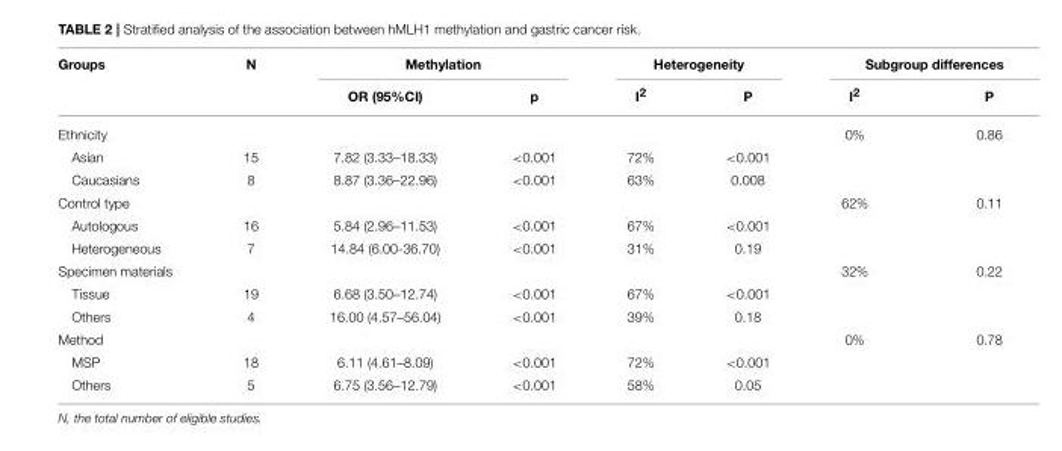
<table><thead><tr><td rowspan="2">Groups</td><td rowspan="2">N</td><td colspan="2">Methylation</td><td colspan="2">Heterogeneity</td><td colspan="2">Subgroup differences</td></tr><tr><td>OR (95%CI)</td><td>p</td><td>I<sup>2</sup></td><td>P</td><td>I<sup>2</sup></td><td>P</td></tr></thead><tbody><tr><td>Ethnicity</td><td></td><td></td><td></td><td></td><td></td><td>0%</td><td>0.86</td></tr><tr><td>Asian</td><td>15</td><td>7.82 (3.33–18.33)</td><td>&lt;0.001</td><td>72%</td><td>&lt;0.001</td><td></td><td></td></tr><tr><td>Caucasians</td><td>8</td><td>8.87 (3.36–22.96)</td><td>&lt;0.001</td><td>63%</td><td>0.008</td><td></td><td></td></tr><tr><td>Control type</td><td></td><td></td><td></td><td></td><td></td><td>62%</td><td>0.11</td></tr><tr><td>Autologous</td><td>16</td><td>5.84 (2.96–11.53)</td><td>&lt;0.001</td><td>67%</td><td>&lt;0.001</td><td></td><td></td></tr><tr><td>Heterogeneous</td><td>7</td><td>14.84 (6.00-36.70)</td><td>&lt;0.001</td><td>31%</td><td>0.19</td><td></td><td></td></tr><tr><td>Specimen materials</td><td></td><td></td><td></td><td></td><td></td><td>32%</td><td>0.22</td></tr><tr><td>Tissue</td><td>19</td><td>6.68 (3.50–12.74)</td><td>&lt;0.001</td><td>67%</td><td>&lt;0.001</td><td></td><td></td></tr><tr><td>Others</td><td>4</td><td>16.00 (4.57–56.04)</td><td>&lt;0.001</td><td>39%</td><td>0.18</td><td></td><td></td></tr><tr><td>Method</td><td></td><td></td><td></td><td></td><td></td><td>0%</td><td>0.78</td></tr><tr><td>MSP</td><td>18</td><td>6.11 (4.61–8.09)</td><td>&lt;0.001</td><td>72%</td><td>&lt;0.001</td><td></td><td></td></tr><tr><td>Others</td><td>5</td><td>6.75 (3.56–12.79)</td><td>&lt;0.001</td><td>58%</td><td>0.05</td><td></td><td></td></tr></tbody></table>